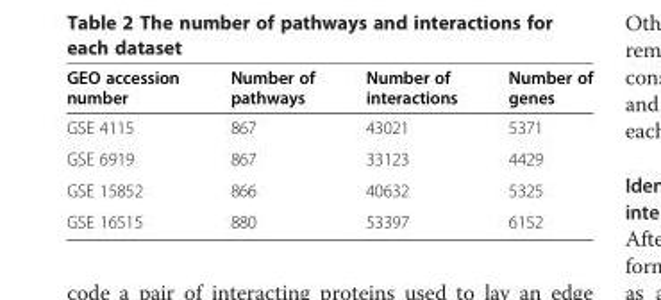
<table><thead><tr><td>GEO accession number</td><td>Number of pathways</td><td>Number of interactions</td><td>Number of genes</td></tr></thead><tbody><tr><td>GSE 4115</td><td>867</td><td>43021</td><td>5371</td></tr><tr><td>GSE 6919</td><td>867</td><td>33123</td><td>4429</td></tr><tr><td>GSE 15852</td><td>866</td><td>40632</td><td>5325</td></tr><tr><td>GSE 16515</td><td>880</td><td>53397</td><td>6152</td></tr></tbody></table>